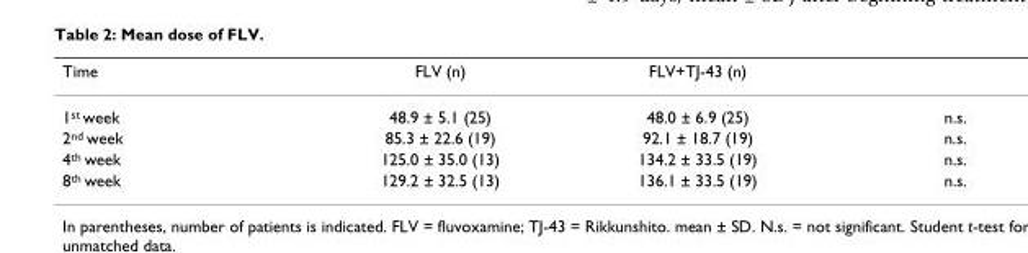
<table><thead><tr><td>Time</td><td>FLV (n)</td><td>FLV+TJ-43 (n)</td><td></td></tr></thead><tbody><tr><td>1<sup>st</sup> week</td><td>48.9 ± 5.1 (25)</td><td>48.0 ± 6.9 (25)</td><td>n.s.</td></tr><tr><td>2<sup>nd</sup> week</td><td>85.3 ± 22.6 (19)</td><td>92.1 ± 18.7 (19)</td><td>n.s.</td></tr><tr><td>4<sup>th</sup> week</td><td>125.0 ± 35.0 (13)</td><td>134.2 ± 33.5 (19)</td><td>n.s.</td></tr><tr><td>8<sup>th</sup> week</td><td>129.2 ± 32.5 (13)</td><td>136.1 ± 33.5 (19)</td><td>n.s.</td></tr></tbody></table>